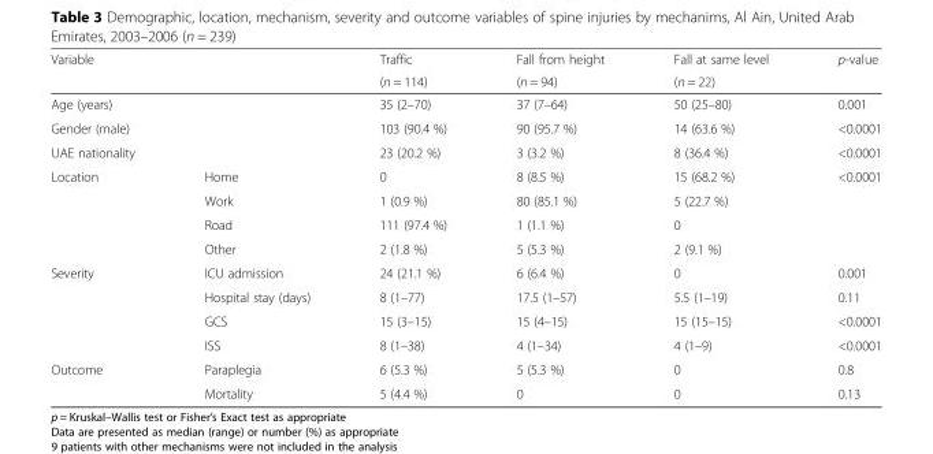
<table><thead><tr><td rowspan="2">Variable</td><td rowspan="2"></td><td rowspan="2">Traffic (n = 114)</td><td rowspan="2">Fall from height (n = 94)</td><td rowspan="2">Fall at same level (n = 22)</td><td rowspan="2">p-value</td></tr><tr></tr></thead><tbody><tr><td>Age (years)</td><td></td><td>35 (2–70)</td><td>37 (7–64)</td><td>50 (25–80)</td><td>0.001</td></tr><tr><td>Gender (male)</td><td></td><td>103 (90.4 %)</td><td>90 (95.7 %)</td><td>14 (63.6 %)</td><td>&lt;0.0001</td></tr><tr><td>UAE nationality</td><td></td><td>23 (20.2 %)</td><td>3 (3.2 %)</td><td>8 (36.4 %)</td><td>&lt;0.0001</td></tr><tr><td rowspan="4">Location</td><td>Home</td><td>0</td><td>8 (8.5 %)</td><td>15 (68.2 %)</td><td rowspan="3">&lt;0.0001</td></tr><tr><td>Work</td><td>1 (0.9 %)</td><td>80 (85.1 %)</td><td>5 (22.7 %)</td></tr><tr><td>Road</td><td>111 (97.4 %)</td><td>1 (1.1 %)</td><td>0</td></tr><tr><td>Other</td><td>2 (1.8 %)</td><td>5 (5.3 %)</td><td>2 (9.1 %)</td><td></td></tr><tr><td rowspan="4">Severity</td><td>ICU admission</td><td>24 (21.1 %)</td><td>6 (6.4 %)</td><td>0</td><td>0.001</td></tr><tr><td>Hospital stay (days)</td><td>8 (1–77)</td><td>17.5 (1–57)</td><td>5.5 (1–19)</td><td>0.11</td></tr><tr><td>GCS</td><td>15 (3–15)</td><td>15 (4–15)</td><td>15 (15–15)</td><td>&lt;0.0001</td></tr><tr><td>ISS</td><td>8 (1–38)</td><td>4 (1–34)</td><td>4 (1–9)</td><td>&lt;0.0001</td></tr><tr><td rowspan="2">Outcome</td><td>Paraplegia</td><td>6 (5.3 %)</td><td>5 (5.3 %)</td><td>0</td><td>0.8</td></tr><tr><td>Mortality</td><td>5 (4.4 %)</td><td>0</td><td>0</td><td>0.13</td></tr></tbody></table>